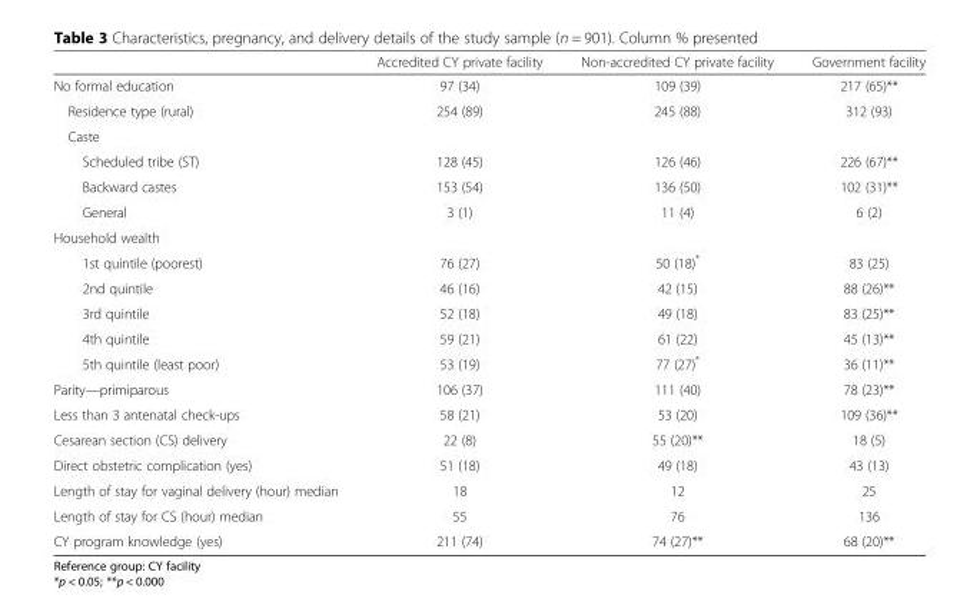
<table><thead><tr><td></td><td>Accredited CY private facility</td><td>Non-accredited CY private facility</td><td>Government facility</td></tr></thead><tbody><tr><td>No formal education</td><td>97 (34)</td><td>109 (39)</td><td>217 (65)**</td></tr><tr><td>Residence type (rural)</td><td>254 (89)</td><td>245 (88)</td><td>312 (93)</td></tr><tr><td colspan="4">Caste</td></tr><tr><td>Scheduled tribe (ST)</td><td>128 (45)</td><td>126 (46)</td><td>226 (67)**</td></tr><tr><td>Backward castes</td><td>153 (54)</td><td>136 (50)</td><td>102 (31)**</td></tr><tr><td>General</td><td>3 (1)</td><td>11 (4)</td><td>6 (2)</td></tr><tr><td colspan="4">Household wealth</td></tr><tr><td>1st quintile (poorest)</td><td>76 (27)</td><td>50 (18)*</td><td>83 (25)</td></tr><tr><td>2nd quintile</td><td>46 (16)</td><td>42 (15)</td><td>88 (26)**</td></tr><tr><td>3rd quintile</td><td>52 (18)</td><td>49 (18)</td><td>83 (25)**</td></tr><tr><td>4th quintile</td><td>59 (21)</td><td>61 (22)</td><td>45 (13)**</td></tr><tr><td>5th quintile (least poor)</td><td>53 (19)</td><td>77 (27)*</td><td>36 (11)**</td></tr><tr><td>Parity—primiparous</td><td>106 (37)</td><td>111 (40)</td><td>78 (23)**</td></tr><tr><td>Less than 3 antenatal check-ups</td><td>58 (21)</td><td>53 (20)</td><td>109 (36)**</td></tr><tr><td>Cesarean section (CS) delivery</td><td>22 (8)</td><td>55 (20)**</td><td>18 (5)</td></tr><tr><td>Direct obstetric complication (yes)</td><td>51 (18)</td><td>49 (18)</td><td>43 (13)</td></tr><tr><td>Length of stay for vaginal delivery (hour) median</td><td>18</td><td>12</td><td>25</td></tr><tr><td>Length of stay for CS (hour) median</td><td>55</td><td>76</td><td>136</td></tr><tr><td>CY program knowledge (yes)</td><td>211 (74)</td><td>74 (27)**</td><td>68 (20)**</td></tr></tbody></table>